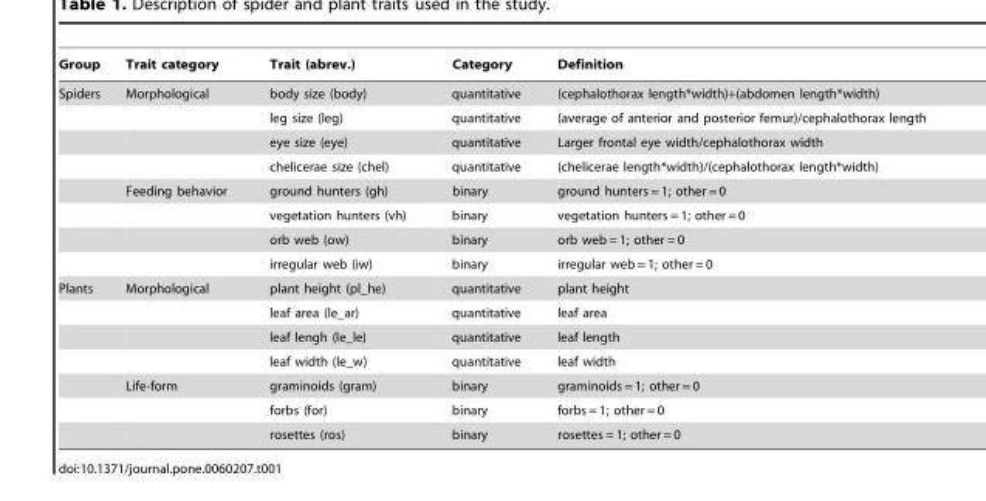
<table><thead><tr><td>Group</td><td>Trait category</td><td>Trait (abrev.)</td><td>Category</td><td>Definition</td></tr></thead><tbody><tr><td rowspan="8">Spiders</td><td>Morphological</td><td>body size (body)</td><td>quantitative</td><td>(cephalothorax length*width)+(abdomen length*width)</td></tr><tr><td></td><td>leg size (leg)</td><td>quantitative</td><td>(average of anterior and posterior femur)/cephalothorax length</td></tr><tr><td></td><td>eye size (eye)</td><td>quantitative</td><td>Larger frontal eye width/cephalothorax width</td></tr><tr><td></td><td>chelicerae size (chel)</td><td>quantitative</td><td>(chelicerae length*width)/(cephalothorax length*width)</td></tr><tr><td>Feeding behavior</td><td>ground hunters (gh)</td><td>binary</td><td>ground hunters = 1; other = 0</td></tr><tr><td></td><td>vegetation hunters (vh)</td><td>binary</td><td>vegetation hunters = 1; other = 0</td></tr><tr><td></td><td>orb web (ow)</td><td>binary</td><td>orb web = 1; other = 0</td></tr><tr><td></td><td>irregular web (iw)</td><td>binary</td><td>irregular web = 1; other = 0</td></tr><tr><td rowspan="7">Plants</td><td>Morphological</td><td>plant height (pl_he)</td><td>quantitative</td><td>plant height</td></tr><tr><td></td><td>leaf area (le_ar)</td><td>quantitative</td><td>leaf area</td></tr><tr><td></td><td>leaf lengh (le_le)</td><td>quantitative</td><td>leaf length</td></tr><tr><td></td><td>leaf width (le_w)</td><td>quantitative</td><td>leaf width</td></tr><tr><td>Life-form</td><td>graminoids (gram)</td><td>binary</td><td>graminoids = 1; other = 0</td></tr><tr><td></td><td>forbs (for)</td><td>binary</td><td>forbs = 1; other = 0</td></tr><tr><td></td><td>rosettes (ros)</td><td>binary</td><td>rosettes = 1; other = 0</td></tr></tbody></table>